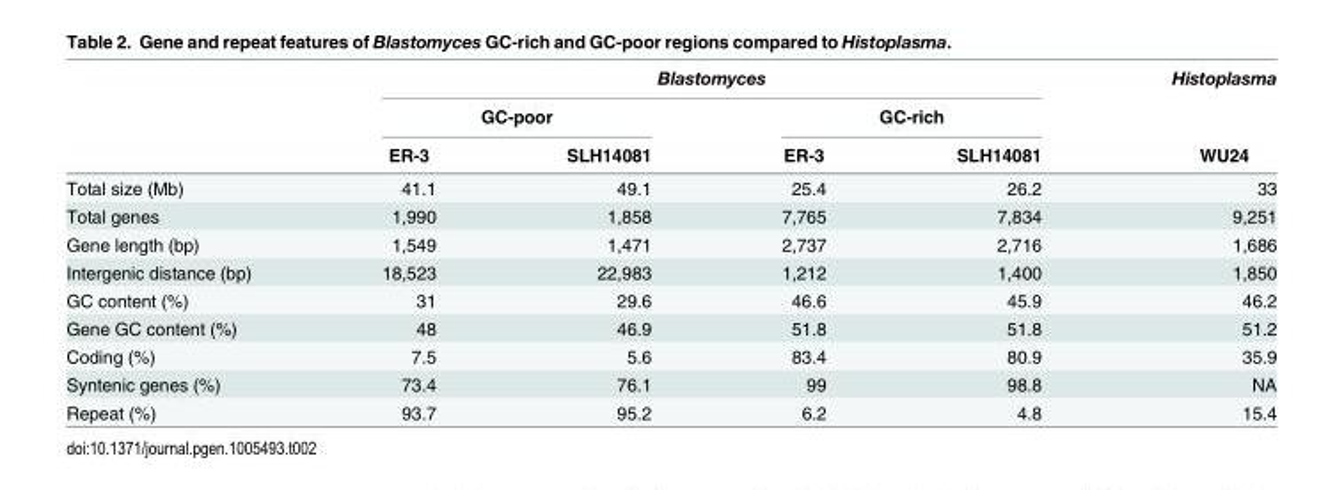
<table><thead><tr><td rowspan="3"></td><td colspan="4">Blastomyces</td><td rowspan="3">Histoplasma WU24</td></tr><tr><td colspan="2">GC-poor</td><td colspan="2">GC-rich</td></tr><tr><td>ER-3</td><td>SLH14081</td><td>ER-3</td><td>SLH14081</td></tr></thead><tbody><tr><td>Total size (Mb)</td><td>41.1</td><td>49.1</td><td>25.4</td><td>26.2</td><td>33</td></tr><tr><td>Total genes</td><td>1,990</td><td>1,858</td><td>7,765</td><td>7,834</td><td>9,251</td></tr><tr><td>Gene length (bp)</td><td>1,549</td><td>1,471</td><td>2,737</td><td>2,716</td><td>1,686</td></tr><tr><td>Intergenic distance (bp)</td><td>18,523</td><td>22,983</td><td>1,212</td><td>1,400</td><td>1,850</td></tr><tr><td>GC content (%)</td><td>31</td><td>29.6</td><td>46.6</td><td>45.9</td><td>46.2</td></tr><tr><td>Gene GC content (%)</td><td>48</td><td>46.9</td><td>51.8</td><td>51.8</td><td>51.2</td></tr><tr><td>Coding (%)</td><td>7.5</td><td>5.6</td><td>83.4</td><td>80.9</td><td>35.9</td></tr><tr><td>Syntenic genes (%)</td><td>73.4</td><td>76.1</td><td>99</td><td>98.8</td><td>NA</td></tr><tr><td>Repeat (%)</td><td>93.7</td><td>95.2</td><td>6.2</td><td>4.8</td><td>15.4</td></tr></tbody></table>